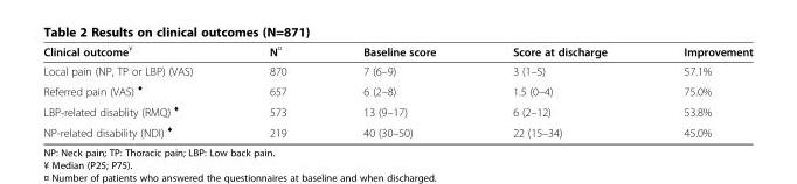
<table><thead><tr><td>Clinical outcome<sup>¥</sup></td><td>N<sup>¤</sup></td><td>Baseline score</td><td>Score at discharge</td><td>Improvement</td></tr></thead><tbody><tr><td>Local pain (NP, TP or LBP) (VAS)</td><td>870</td><td>7 (6–9)</td><td>3 (1–5)</td><td>57.1%</td></tr><tr><td>Referred pain (VAS) <sup>♦</sup></td><td>657</td><td>6 (2–8)</td><td>1.5 (0–4)</td><td>75.0%</td></tr><tr><td>LBP-related disablity (RMQ) <sup>♦</sup></td><td>573</td><td>13 (9–17)</td><td>6 (2–12)</td><td>53.8%</td></tr><tr><td>NP-related disability (NDI) <sup>♦</sup></td><td>219</td><td>40 (30–50)</td><td>22 (15–34)</td><td>45.0%</td></tr></tbody></table>